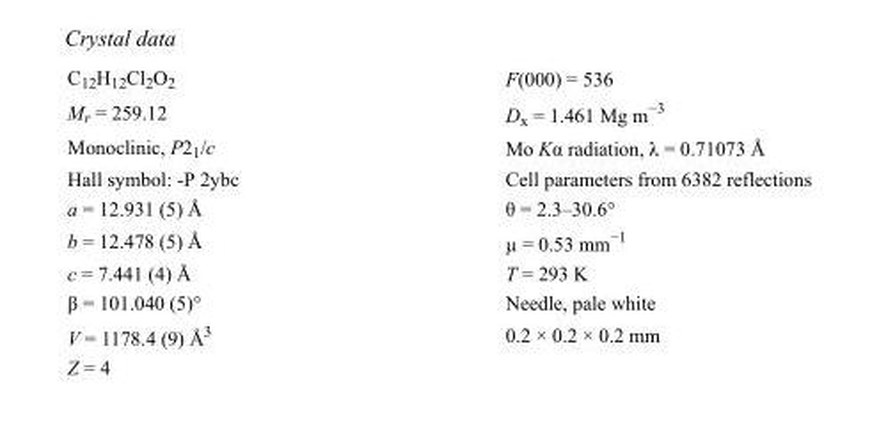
<table><tbody><tr><td>C<sub>12</sub>H<sub>12</sub>Cl<sub>2</sub>O<sub>2</sub></td><td>F(000) = 536</td></tr><tr><td>M<sub>r</sub> = 259.12</td><td>D<sub>x</sub> = 1.461 Mg m<sup>−3</sup></td></tr><tr><td>Monoclinic, P2<sub>1</sub>/c</td><td>Mo Kα radiation, λ = 0.71073 Å</td></tr><tr><td>Hall symbol: -P 2ybc</td><td>Cell parameters from 6382 reflections</td></tr><tr><td>a = 12.931 (5) Å</td><td>θ = 2.3–30.6°</td></tr><tr><td>b = 12.478 (5) Å</td><td>µ = 0.53 mm<sup>−1</sup></td></tr><tr><td>c = 7.441 (4) Å</td><td>T = 293 K</td></tr><tr><td>β = 101.040 (5)°</td><td>Needle, pale white</td></tr><tr><td>V = 1178.4 (9) Å<sup>3</sup></td><td>0.2 × 0.2 × 0.2 mm</td></tr><tr><td>Z = 4</td><td></td></tr></tbody></table>